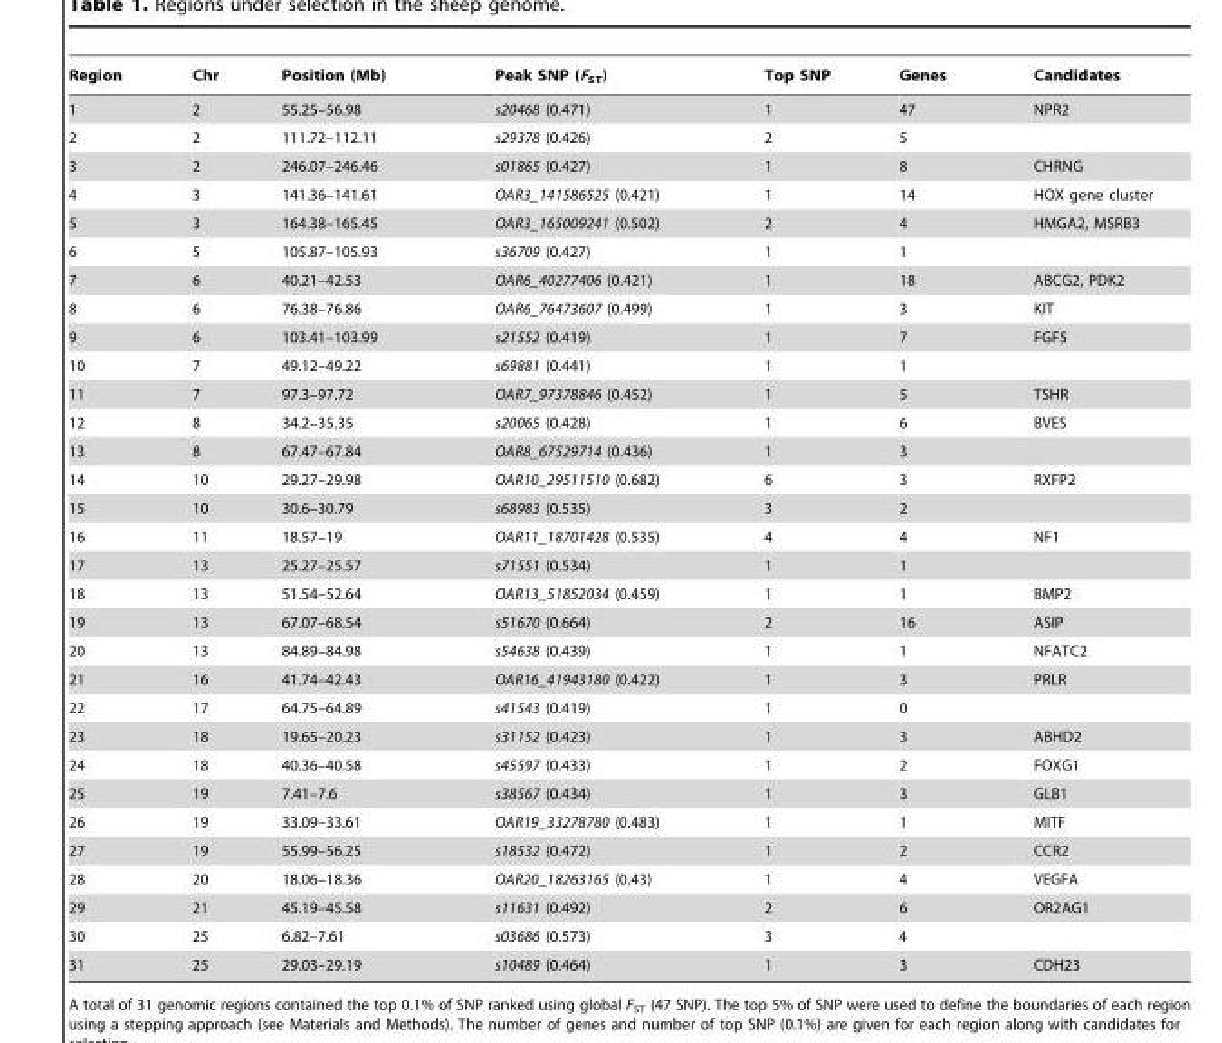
<table><thead><tr><td>Region</td><td>Chr</td><td>Position (Mb)</td><td>Peak SNP (F<sub>ST</sub>)</td><td>Top SNP</td><td>Genes</td><td>Candidates</td></tr></thead><tbody><tr><td>1</td><td>2</td><td>55.25–56.98</td><td>s20468 (0.471)</td><td>1</td><td>47</td><td>NPR2</td></tr><tr><td>2</td><td>2</td><td>111.72–112.11</td><td>s29378 (0.426)</td><td>2</td><td>5</td><td></td></tr><tr><td>3</td><td>2</td><td>246.07–246.46</td><td>s01865 (0.427)</td><td>1</td><td>8</td><td>CHRNG</td></tr><tr><td>4</td><td>3</td><td>141.36–141.61</td><td>OAR3_141586525 (0.421)</td><td>1</td><td>14</td><td>HOX gene cluster</td></tr><tr><td>5</td><td>3</td><td>164.38–165.45</td><td>OAR3_165009241 (0.502)</td><td>2</td><td>4</td><td>HMGA2, MSRB3</td></tr><tr><td>6</td><td>5</td><td>105.87–105.93</td><td>s36709 (0.427)</td><td>1</td><td>1</td><td></td></tr><tr><td>7</td><td>6</td><td>40.21–42.53</td><td>OAR6_40277406 (0.421)</td><td>1</td><td>18</td><td>ABCG2, PDK2</td></tr><tr><td>8</td><td>6</td><td>76.38–76.86</td><td>OAR6_76473607 (0.499)</td><td>1</td><td>3</td><td>KIT</td></tr><tr><td>9</td><td>6</td><td>103.41–103.99</td><td>s21552 (0.419)</td><td>1</td><td>7</td><td>FGF5</td></tr><tr><td>10</td><td>7</td><td>49.12–49.22</td><td>s69881 (0.441)</td><td>1</td><td>1</td><td></td></tr><tr><td>11</td><td>7</td><td>97.3–97.72</td><td>OAR7_97378846 (0.452)</td><td>1</td><td>5</td><td>TSHR</td></tr><tr><td>12</td><td>8</td><td>34.2–35.35</td><td>s20065 (0.428)</td><td>1</td><td>6</td><td>BVES</td></tr><tr><td>13</td><td>8</td><td>67.47–67.84</td><td>OAR8_67529714 (0.436)</td><td>1</td><td>3</td><td></td></tr><tr><td>14</td><td>10</td><td>29.27–29.98</td><td>OAR10_29511510 (0.682)</td><td>6</td><td>3</td><td>RXFP2</td></tr><tr><td>15</td><td>10</td><td>30.6–30.79</td><td>s68983 (0.535)</td><td>3</td><td>2</td><td></td></tr><tr><td>16</td><td>11</td><td>18.57–19</td><td>OAR11_18701428 (0.535)</td><td>4</td><td>4</td><td>NF1</td></tr><tr><td>17</td><td>13</td><td>25.27–25.57</td><td>s71551 (0.534)</td><td>1</td><td>1</td><td></td></tr><tr><td>18</td><td>13</td><td>51.54–52.64</td><td>OAR13_51852034 (0.459)</td><td>1</td><td>1</td><td>BMP2</td></tr><tr><td>19</td><td>13</td><td>67.07–68.54</td><td>s51670 (0.664)</td><td>2</td><td>16</td><td>ASIP</td></tr><tr><td>20</td><td>13</td><td>84.89–84.98</td><td>s54638 (0.439)</td><td>1</td><td>1</td><td>NFATC2</td></tr><tr><td>21</td><td>16</td><td>41.74–42.43</td><td>OAR16_41943180 (0.422)</td><td>1</td><td>3</td><td>PRLR</td></tr><tr><td>22</td><td>17</td><td>64.75–64.89</td><td>s41543 (0.419)</td><td>1</td><td>0</td><td></td></tr><tr><td>23</td><td>18</td><td>19.65–20.23</td><td>s31152 (0.423)</td><td>1</td><td>3</td><td>ABHD2</td></tr><tr><td>24</td><td>18</td><td>40.36–40.58</td><td>s45597 (0.433)</td><td>1</td><td>2</td><td>FOXG1</td></tr><tr><td>25</td><td>19</td><td>7.41–7.6</td><td>s38567 (0.434)</td><td>1</td><td>3</td><td>GLB1</td></tr><tr><td>26</td><td>19</td><td>33.09–33.61</td><td>OAR19_33278780 (0.483)</td><td>1</td><td>1</td><td>MITF</td></tr><tr><td>27</td><td>19</td><td>55.99–56.25</td><td>s18532 (0.472)</td><td>1</td><td>2</td><td>CCR2</td></tr><tr><td>28</td><td>20</td><td>18.06–18.36</td><td>OAR20_18263165 (0.43)</td><td>1</td><td>4</td><td>VEGFA</td></tr><tr><td>29</td><td>21</td><td>45.19–45.58</td><td>s11631 (0.492)</td><td>2</td><td>6</td><td>OR2AG1</td></tr><tr><td>30</td><td>25</td><td>6.82–7.61</td><td>s03686 (0.573)</td><td>3</td><td>4</td><td></td></tr><tr><td>31</td><td>25</td><td>29.03–29.19</td><td>s10489 (0.464)</td><td>1</td><td>3</td><td>CDH23</td></tr></tbody></table>